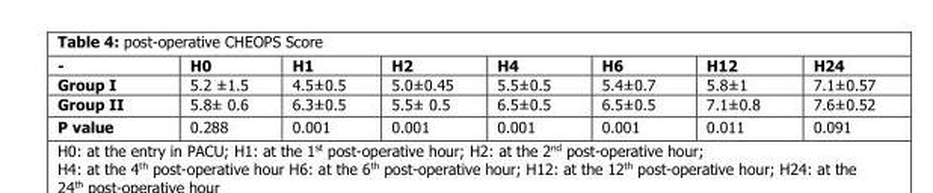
<table><thead><tr><td>-</td><td>H0</td><td>H1</td><td>H2</td><td>H4</td><td>H6</td><td>H12</td><td>H24</td></tr></thead><tbody><tr><td>Group I</td><td>5.2 ±1.5</td><td>4.5±0.5</td><td>5.0±0.45</td><td>5.5±0.5</td><td>5.4±0.7</td><td>5.8±1</td><td>7.1±0.57</td></tr><tr><td>Group II</td><td>5.8± 0.6</td><td>6.3±0.5</td><td>5.5± 0.5</td><td>6.5±0.5</td><td>6.5±0.5</td><td>7.1±0.8</td><td>7.6±0.52</td></tr><tr><td>P value</td><td>0.288</td><td>0.001</td><td>0.001</td><td>0.001</td><td>0.001</td><td>0.011</td><td>0.091</td></tr></tbody></table>